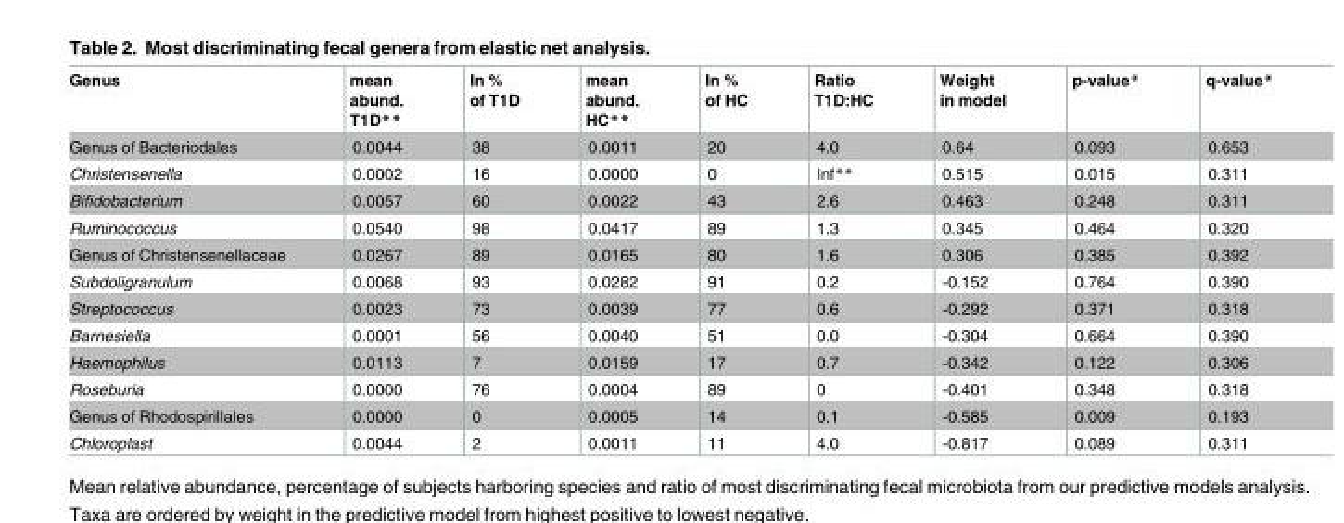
<table><thead><tr><td>Genus</td><td>mean abund. T1D**</td><td>In % of T1D</td><td>mean abund. HC**</td><td>In % of HC</td><td>Ratio T1D:HC</td><td>Weight in model</td><td>p-value*</td><td>q-value*</td></tr></thead><tbody><tr><td>Genus of Bacteriodales</td><td>0.0044</td><td>38</td><td>0.0011</td><td>20</td><td>4.0</td><td>0.64</td><td>0.093</td><td>0.653</td></tr><tr><td>Christensenella</td><td>0.0002</td><td>16</td><td>0.0000</td><td>0</td><td>Inf**</td><td>0.515</td><td>0.015</td><td>0.311</td></tr><tr><td>Bifidobacterium</td><td>0.0057</td><td>60</td><td>0.0022</td><td>43</td><td>2.6</td><td>0.463</td><td>0.248</td><td>0.311</td></tr><tr><td>Ruminococcus</td><td>0.0540</td><td>98</td><td>0.0417</td><td>89</td><td>1.3</td><td>0.345</td><td>0.464</td><td>0.320</td></tr><tr><td>Genus of Christensenellaceae</td><td>0.0267</td><td>89</td><td>0.0165</td><td>80</td><td>1.6</td><td>0.306</td><td>0.385</td><td>0.392</td></tr><tr><td>Subdoligranulum</td><td>0.0068</td><td>93</td><td>0.0282</td><td>91</td><td>0.2</td><td>-0.152</td><td>0.764</td><td>0.390</td></tr><tr><td>Streptococcus</td><td>0.0023</td><td>73</td><td>0.0039</td><td>77</td><td>0.6</td><td>-0.292</td><td>0.371</td><td>0.318</td></tr><tr><td>Barnesiella</td><td>0.0001</td><td>56</td><td>0.0040</td><td>51</td><td>0.0</td><td>-0.304</td><td>0.664</td><td>0.390</td></tr><tr><td>Haemophilus</td><td>0.0113</td><td>7</td><td>0.0159</td><td>17</td><td>0.7</td><td>-0.342</td><td>0.122</td><td>0.306</td></tr><tr><td>Roseburia</td><td>0.0000</td><td>76</td><td>0.0004</td><td>89</td><td>0</td><td>-0.401</td><td>0.348</td><td>0.318</td></tr><tr><td>Genus of Rhodospirillales</td><td>0.0000</td><td>0</td><td>0.0005</td><td>14</td><td>0.1</td><td>-0.585</td><td>0.009</td><td>0.193</td></tr><tr><td>Chloroplast</td><td>0.0044</td><td>2</td><td>0.0011</td><td>11</td><td>4.0</td><td>-0.817</td><td>0.089</td><td>0.311</td></tr></tbody></table>